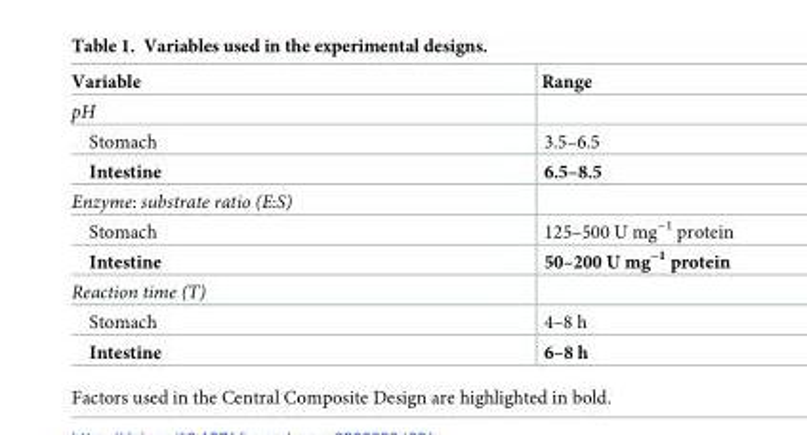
<table><thead><tr><td>Variable</td><td>Range</td></tr></thead><tbody><tr><td colspan="2">pH</td></tr><tr><td>Stomach</td><td>3.5–6.5</td></tr><tr><td>Intestine</td><td>6.5–8.5</td></tr><tr><td colspan="2">Enzyme: substrate ratio (E:S)</td></tr><tr><td>Stomach</td><td>125–500 U mg<sup>−1</sup> protein</td></tr><tr><td>Intestine</td><td>50–200 U mg<sup>−1</sup> protein</td></tr><tr><td colspan="2">Reaction time (T)</td></tr><tr><td>Stomach</td><td>4–8 h</td></tr><tr><td>Intestine</td><td>6–8 h</td></tr></tbody></table>